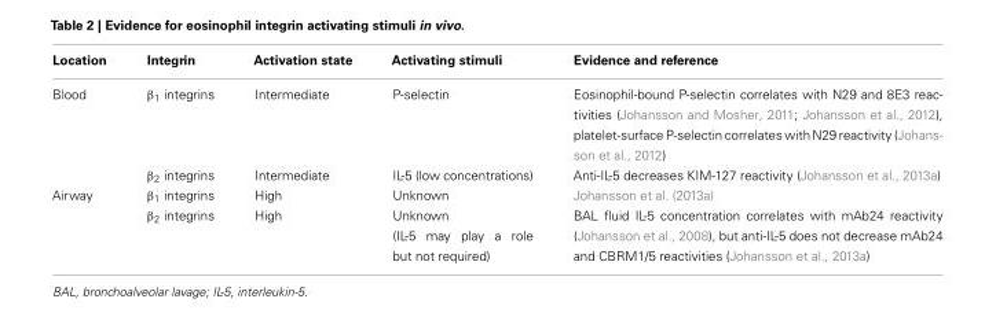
<table><thead><tr><td>Location</td><td>Integrin</td><td>Activation state</td><td>Activating stimuli</td><td>Evidence and reference</td></tr></thead><tbody><tr><td rowspan="2">Blood</td><td>β<sub>1</sub> integrins</td><td>Intermediate</td><td>P-selectin</td><td>Eosinophil-bound P-selectin correlates with N29 and 8E3 reac- tivities (Johansson and Mosher, 2011; Johansson et al., 2012), platelet-surface P-selectin correlates with N29 reactivity (Johans- son et al., 2012)</td></tr><tr><td>β<sub>2</sub> integrins</td><td>Intermediate</td><td>IL-5 (low concentrations)</td><td>Anti-IL-5 decreases KIM-127 reactivity (Johansson et al., 2013a)</td></tr><tr><td rowspan="2">Airway</td><td>β<sub>1</sub> integrins</td><td>High</td><td>Unknown</td><td>Johansson et al. (2013a)</td></tr><tr><td>β<sub>2</sub> integrins</td><td>High</td><td>Unknown (IL-5 may play a role but not required)</td><td>BAL fluid IL-5 concentration correlates with mAb24 reactivity (Johansson et al., 2008), but anti-IL-5 does not decrease mAb24 and CBRM1/5 reactivities (Johansson et al., 2013a)</td></tr></tbody></table>